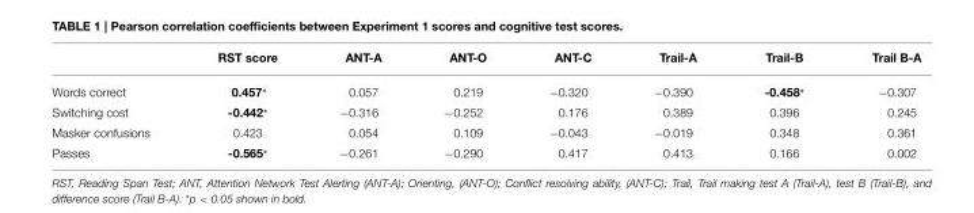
<table><thead><tr><td></td><td>RST score</td><td>ANT-A</td><td>ANT-O</td><td>ANT-C</td><td>Trail-A</td><td>Trail-B</td><td>Trail B-A</td></tr></thead><tbody><tr><td>Words correct</td><td>0.457*</td><td>0.057</td><td>0.219</td><td>−0.320</td><td>−0.390</td><td>-0.458*</td><td>−0.307</td></tr><tr><td>Switching cost</td><td>-0.442*</td><td>−0.316</td><td>−0.252</td><td>0.176</td><td>0.389</td><td>0.396</td><td>0.245</td></tr><tr><td>Masker confusions</td><td>0.423</td><td>0.054</td><td>0.109</td><td>−0.043</td><td>−0.019</td><td>0.348</td><td>0.361</td></tr><tr><td>Passes</td><td>-0.565*</td><td>−0.261</td><td>−0.290</td><td>0.417</td><td>0.413</td><td>0.166</td><td>0.002</td></tr></tbody></table>